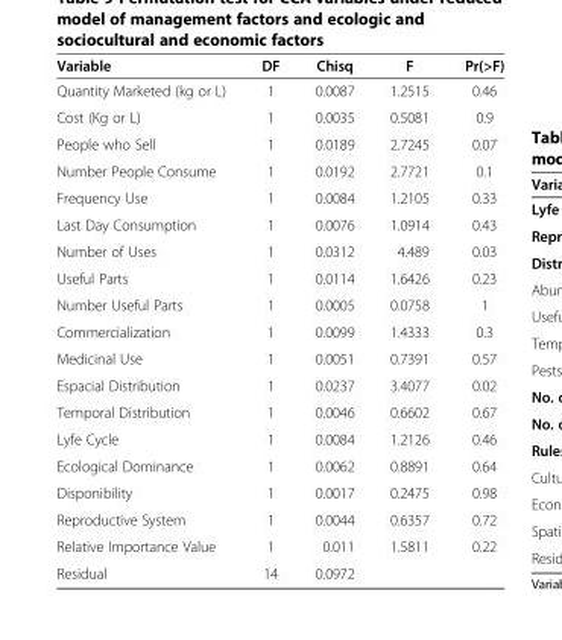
<table><thead><tr><td>Variable</td><td>DF</td><td>Chisq</td><td>F</td><td>Pr(&gt;F)</td></tr></thead><tbody><tr><td>Quantity Marketed (kg or L)</td><td>1</td><td>0.0087</td><td>1.2515</td><td>0.46</td></tr><tr><td>Cost (Kg or L)</td><td>1</td><td>0.0035</td><td>0.5081</td><td>0.9</td></tr><tr><td>People who Sell</td><td>1</td><td>0.0189</td><td>2.7245</td><td>0.07</td></tr><tr><td>Number People Consume</td><td>1</td><td>0.0192</td><td>2.7721</td><td>0.1</td></tr><tr><td>Frequency Use</td><td>1</td><td>0.0084</td><td>1.2105</td><td>0.33</td></tr><tr><td>Last Day Consumption</td><td>1</td><td>0.0076</td><td>1.0914</td><td>0.43</td></tr><tr><td>Number of Uses</td><td>1</td><td>0.0312</td><td>4.489</td><td>0.03</td></tr><tr><td>Useful Parts</td><td>1</td><td>0.0114</td><td>1.6426</td><td>0.23</td></tr><tr><td>Number Useful Parts</td><td>1</td><td>0.0005</td><td>0.0758</td><td>1</td></tr><tr><td>Commercialization</td><td>1</td><td>0.0099</td><td>1.4333</td><td>0.3</td></tr><tr><td>Medicinal Use</td><td>1</td><td>0.0051</td><td>0.7391</td><td>0.57</td></tr><tr><td>Espacial Distribution</td><td>1</td><td>0.0237</td><td>3.4077</td><td>0.02</td></tr><tr><td>Temporal Distribution</td><td>1</td><td>0.0046</td><td>0.6602</td><td>0.67</td></tr><tr><td>Lyfe Cycle</td><td>1</td><td>0.0084</td><td>1.2126</td><td>0.46</td></tr><tr><td>Ecological Dominance</td><td>1</td><td>0.0062</td><td>0.8891</td><td>0.64</td></tr><tr><td>Disponibility</td><td>1</td><td>0.0017</td><td>0.2475</td><td>0.98</td></tr><tr><td>Reproductive System</td><td>1</td><td>0.0044</td><td>0.6357</td><td>0.72</td></tr><tr><td>Relative Importance Value</td><td>1</td><td>0.011</td><td>1.5811</td><td>0.22</td></tr><tr><td>Residual</td><td>14</td><td>0.0972</td><td></td><td></td></tr></tbody></table>